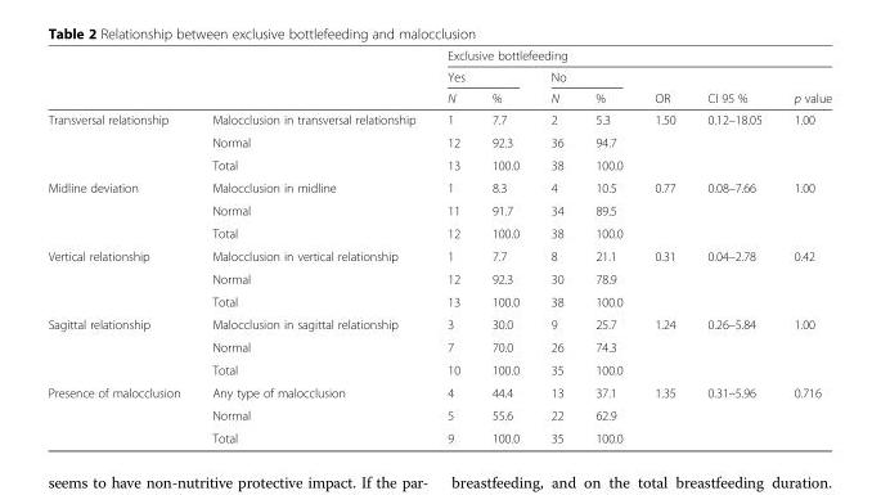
<table><thead><tr><td rowspan="3"></td><td rowspan="3"></td><td colspan="7">Exclusive bottlefeeding</td></tr><tr><td colspan="2">Yes</td><td colspan="2">No</td><td rowspan="2">OR</td><td rowspan="2">CI 95 %</td><td rowspan="2">p value</td></tr><tr><td>N</td><td>%</td><td>N</td><td>%</td></tr></thead><tbody><tr><td rowspan="3">Transversal relationship</td><td>Malocclusion in transversal relationship</td><td>1</td><td>7.7</td><td>2</td><td>5.3</td><td>1.50</td><td>0.12–18.05</td><td>1.00</td></tr><tr><td>Normal</td><td>12</td><td>92.3</td><td>36</td><td>94.7</td><td></td><td></td><td></td></tr><tr><td>Total</td><td>13</td><td>100.0</td><td>38</td><td>100.0</td><td></td><td></td><td></td></tr><tr><td rowspan="3">Midline deviation</td><td>Malocclusion in midline</td><td>1</td><td>8.3</td><td>4</td><td>10.5</td><td>0.77</td><td>0.08–7.66</td><td>1.00</td></tr><tr><td>Normal</td><td>11</td><td>91.7</td><td>34</td><td>89.5</td><td></td><td></td><td></td></tr><tr><td>Total</td><td>12</td><td>100.0</td><td>38</td><td>100.0</td><td></td><td></td><td></td></tr><tr><td rowspan="3">Vertical relationship</td><td>Malocclusion in vertical relationship</td><td>1</td><td>7.7</td><td>8</td><td>21.1</td><td>0.31</td><td>0.04–2.78</td><td>0.42</td></tr><tr><td>Normal</td><td>12</td><td>92.3</td><td>30</td><td>78.9</td><td></td><td></td><td></td></tr><tr><td>Total</td><td>13</td><td>100.0</td><td>38</td><td>100.0</td><td></td><td></td><td></td></tr><tr><td rowspan="3">Sagittal relationship</td><td>Malocclusion in sagittal relationship</td><td>3</td><td>30.0</td><td>9</td><td>25.7</td><td>1.24</td><td>0.26–5.84</td><td>1.00</td></tr><tr><td>Normal</td><td>7</td><td>70.0</td><td>26</td><td>74.3</td><td></td><td></td><td></td></tr><tr><td>Total</td><td>10</td><td>100.0</td><td>35</td><td>100.0</td><td></td><td></td><td></td></tr><tr><td rowspan="3">Presence of malocclusion</td><td>Any type of malocclusion</td><td>4</td><td>44.4</td><td>13</td><td>37.1</td><td>1.35</td><td>0.31–5.96</td><td>0.716</td></tr><tr><td>Normal</td><td>5</td><td>55.6</td><td>22</td><td>62.9</td><td></td><td></td><td></td></tr><tr><td>Total</td><td>9</td><td>100.0</td><td>35</td><td>100.0</td><td></td><td></td><td></td></tr></tbody></table>